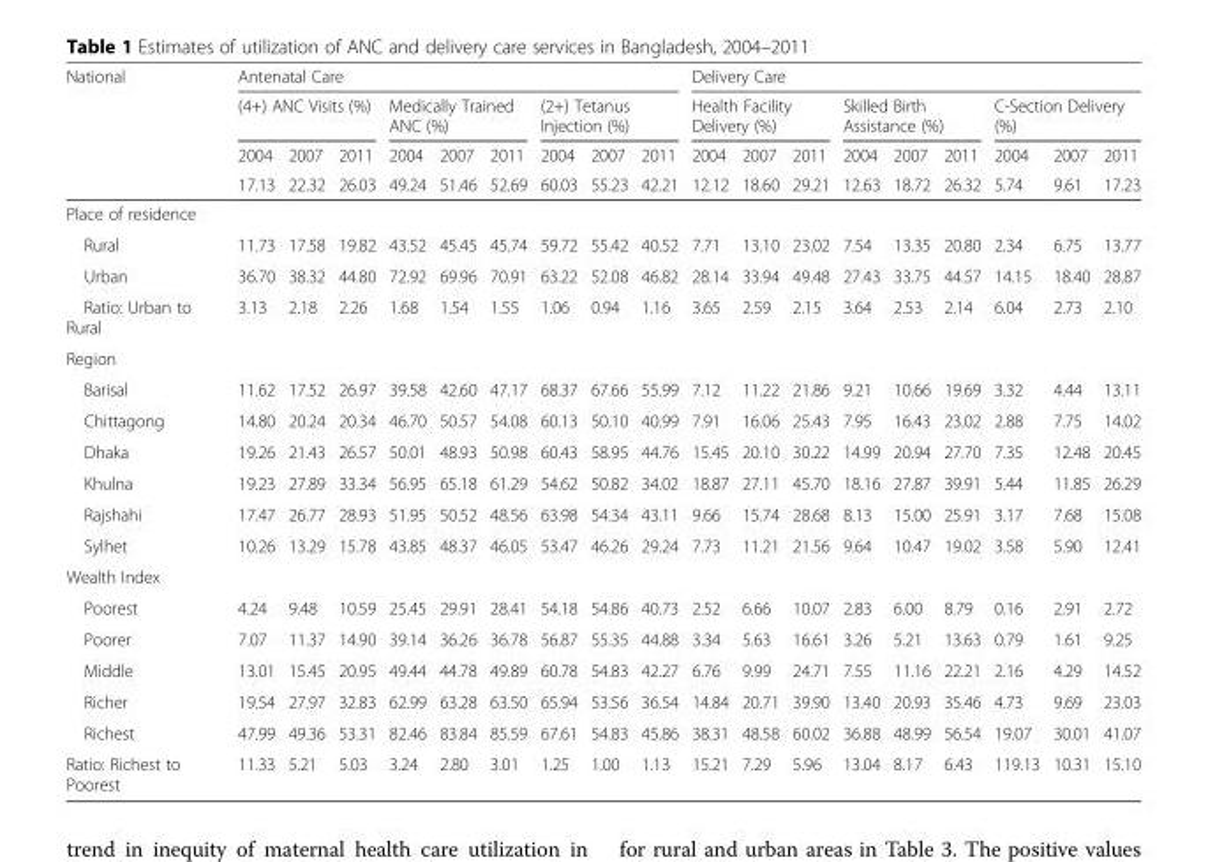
<table><thead><tr><td rowspan="4">National</td><td colspan="9">Antenatal Care</td><td colspan="9">Delivery Care</td></tr><tr><td colspan="3">(4+) ANC Visits (%)</td><td colspan="3">Medically Trained ANC (%)</td><td colspan="3">(2+) Tetanus Injection (%)</td><td colspan="3">Health Facility Delivery (%)</td><td colspan="3">Skilled Birth Assistance (%)</td><td colspan="3">C-Section Delivery (%)</td></tr><tr><td rowspan="2">2004 17.13</td><td rowspan="2">2007 22.32</td><td rowspan="2">2011 26.03</td><td rowspan="2">2004 49.24</td><td rowspan="2">2007 51.46</td><td rowspan="2">2011 52.69</td><td rowspan="2">2004 60.03</td><td rowspan="2">2007 55.23</td><td rowspan="2">2011 42.21</td><td rowspan="2">2004 12.12</td><td rowspan="2">2007 18.60</td><td rowspan="2">2011 29.21</td><td rowspan="2">2004 12.63</td><td rowspan="2">2007 18.72</td><td rowspan="2">2011 26.32</td><td rowspan="2">2004 5.74</td><td rowspan="2">2007 9.61</td><td rowspan="2">2011 17.23</td></tr><tr></tr></thead><tbody><tr><td colspan="19">Place of residence</td></tr><tr><td>Rural</td><td>11.73</td><td>17.58</td><td>19.82</td><td>43.52</td><td>45.45</td><td>45.74</td><td>59.72</td><td>55.42</td><td>40.52</td><td>7.71</td><td>13.10</td><td>23.02</td><td>7.54</td><td>13.35</td><td>20.80</td><td>2.34</td><td>6.75</td><td>13.77</td></tr><tr><td>Urban</td><td>36.70</td><td>38.32</td><td>44.80</td><td>72.92</td><td>69.96</td><td>70.91</td><td>63.22</td><td>52.08</td><td>46.82</td><td>28.14</td><td>33.94</td><td>49.48</td><td>27.43</td><td>33.75</td><td>44.57</td><td>14.15</td><td>18.40</td><td>28.87</td></tr><tr><td>Ratio: Urban to Rural</td><td>3.13</td><td>2.18</td><td>2.26</td><td>1.68</td><td>1.54</td><td>1.55</td><td>1.06</td><td>0.94</td><td>1.16</td><td>3.65</td><td>2.59</td><td>2.15</td><td>3.64</td><td>2.53</td><td>2.14</td><td>6.04</td><td>2.73</td><td>2.10</td></tr><tr><td colspan="19">Region</td></tr><tr><td>Barisal</td><td>11.62</td><td>17.52</td><td>26.97</td><td>39.58</td><td>42.60</td><td>47.17</td><td>68.37</td><td>67.66</td><td>55.99</td><td>7.12</td><td>11.22</td><td>21.86</td><td>9.21</td><td>10.66</td><td>19.69</td><td>3.32</td><td>4.44</td><td>13.11</td></tr><tr><td>Chittagong</td><td>14.80</td><td>20.24</td><td>20.34</td><td>46.70</td><td>50.57</td><td>54.08</td><td>60.13</td><td>50.10</td><td>40.99</td><td>7.91</td><td>16.06</td><td>25.43</td><td>7.95</td><td>16.43</td><td>23.02</td><td>2.88</td><td>7.75</td><td>14.02</td></tr><tr><td>Dhaka</td><td>19.26</td><td>21.43</td><td>26.57</td><td>50.01</td><td>48.93</td><td>50.98</td><td>60.43</td><td>58.95</td><td>44.76</td><td>15.45</td><td>20.10</td><td>30.22</td><td>14.99</td><td>20.94</td><td>27.70</td><td>7.35</td><td>12.48</td><td>20.45</td></tr><tr><td>Khulna</td><td>19.23</td><td>27.89</td><td>33.34</td><td>56.95</td><td>65.18</td><td>61.29</td><td>54.62</td><td>50.82</td><td>34.02</td><td>18.87</td><td>27.11</td><td>45.70</td><td>18.16</td><td>27.87</td><td>39.91</td><td>5.44</td><td>11.85</td><td>26.29</td></tr><tr><td>Rajshahi</td><td>17.47</td><td>26.77</td><td>28.93</td><td>51.95</td><td>50.52</td><td>48.56</td><td>63.98</td><td>54.34</td><td>43.11</td><td>9.66</td><td>15.74</td><td>28.68</td><td>8.13</td><td>15.00</td><td>25.91</td><td>3.17</td><td>7.68</td><td>15.08</td></tr><tr><td>Sylhet</td><td>10.26</td><td>13.29</td><td>15.78</td><td>43.85</td><td>48.37</td><td>46.05</td><td>53.47</td><td>46.26</td><td>29.24</td><td>7.73</td><td>11.21</td><td>21.56</td><td>9.64</td><td>10.47</td><td>19.02</td><td>3.58</td><td>5.90</td><td>12.41</td></tr><tr><td colspan="19">Wealth Index</td></tr><tr><td>Poorest</td><td>4.24</td><td>9.48</td><td>10.59</td><td>25.45</td><td>29.91</td><td>28.41</td><td>54.18</td><td>54.86</td><td>40.73</td><td>2.52</td><td>6.66</td><td>10.07</td><td>2.83</td><td>6.00</td><td>8.79</td><td>0.16</td><td>2.91</td><td>2.72</td></tr><tr><td>Poorer</td><td>7.07</td><td>11.37</td><td>14.90</td><td>39.14</td><td>36.26</td><td>36.78</td><td>56.87</td><td>55.35</td><td>44.88</td><td>3.34</td><td>5.63</td><td>16.61</td><td>3.26</td><td>5.21</td><td>13.63</td><td>0.79</td><td>1.61</td><td>9.25</td></tr><tr><td>Middle</td><td>13.01</td><td>15.45</td><td>20.95</td><td>49.44</td><td>44.78</td><td>49.89</td><td>60.78</td><td>54.83</td><td>42.27</td><td>6.76</td><td>9.99</td><td>24.71</td><td>7.55</td><td>11.16</td><td>22.21</td><td>2.16</td><td>4.29</td><td>14.52</td></tr><tr><td>Richer</td><td>19.54</td><td>27.97</td><td>32.83</td><td>62.99</td><td>63.28</td><td>63.50</td><td>65.94</td><td>53.56</td><td>36.54</td><td>14.84</td><td>20.71</td><td>39.90</td><td>13.40</td><td>20.93</td><td>35.46</td><td>4.73</td><td>9.69</td><td>23.03</td></tr><tr><td>Richest</td><td>47.99</td><td>49.36</td><td>53.31</td><td>82.46</td><td>83.84</td><td>85.59</td><td>67.61</td><td>54.83</td><td>45.86</td><td>38.31</td><td>48.58</td><td>60.02</td><td>36.88</td><td>48.99</td><td>56.54</td><td>19.07</td><td>30.01</td><td>41.07</td></tr><tr><td>Ratio: Richest to Poorest</td><td>11.33</td><td>5.21</td><td>5.03</td><td>3.24</td><td>2.80</td><td>3.01</td><td>1.25</td><td>1.00</td><td>1.13</td><td>15.21</td><td>7.29</td><td>5.96</td><td>13.04</td><td>8.17</td><td>6.43</td><td>119.13</td><td>10.31</td><td>15.10</td></tr></tbody></table>